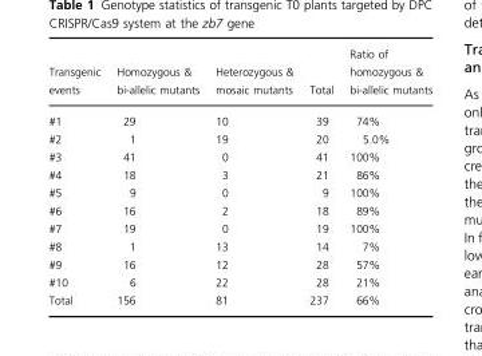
<table><thead><tr><td>Transgenic events</td><td>Homozygous &amp; bi-allelic mutants</td><td>Heterozygous &amp; mosaic mutants</td><td>Total</td><td>Ratio of homozygous &amp; bi-allelic mutants</td></tr></thead><tbody><tr><td>#1</td><td>29</td><td>10</td><td>39</td><td>74%</td></tr><tr><td>#2</td><td>1</td><td>19</td><td>20</td><td>5.0%</td></tr><tr><td>#3</td><td>41</td><td>0</td><td>41</td><td>100%</td></tr><tr><td>#4</td><td>18</td><td>3</td><td>21</td><td>86%</td></tr><tr><td>#5</td><td>9</td><td>0</td><td>9</td><td>100%</td></tr><tr><td>#6</td><td>16</td><td>2</td><td>18</td><td>89%</td></tr><tr><td>#7</td><td>19</td><td>0</td><td>19</td><td>100%</td></tr><tr><td>#8</td><td>1</td><td>13</td><td>14</td><td>7%</td></tr><tr><td>#9</td><td>16</td><td>12</td><td>28</td><td>57%</td></tr><tr><td>#10</td><td>6</td><td>22</td><td>28</td><td>21%</td></tr><tr><td>Total</td><td>156</td><td>81</td><td>237</td><td>66%</td></tr></tbody></table>